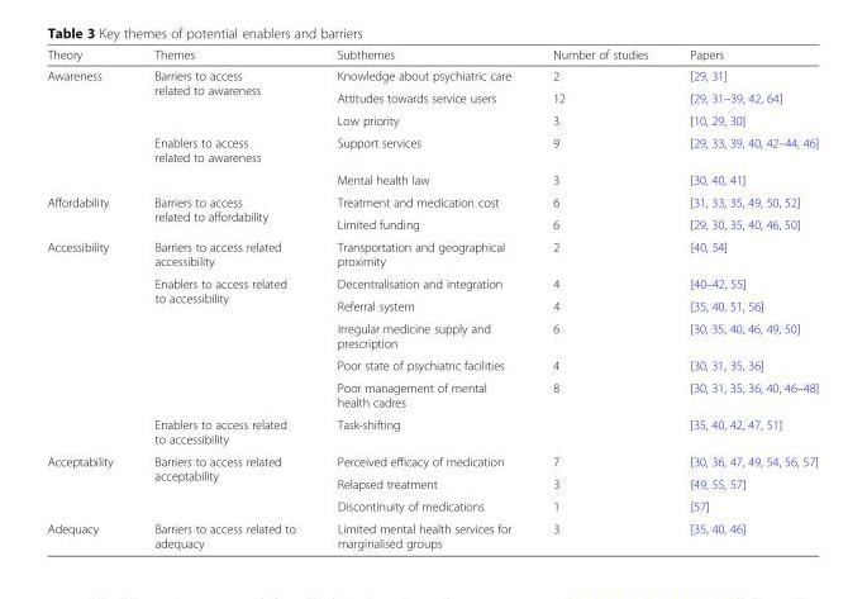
<table><thead><tr><td>Theory</td><td>Themes</td><td>Subthemes</td><td>Number of studies</td><td>Papers</td></tr></thead><tbody><tr><td rowspan="5">Awareness</td><td rowspan="3">Barriers to access related to awareness</td><td>Knowledge about psychiatric care</td><td>2</td><td>[29, 31]</td></tr><tr><td>Attitudes towards service users</td><td>12</td><td>[29, 31–39, 42, 64]</td></tr><tr><td>Low priority</td><td>3</td><td>[10, 29, 30]</td></tr><tr><td>Enablers to access related to awareness</td><td>Support services</td><td>9</td><td>[29, 33, 39, 40, 42–44, 46]</td></tr><tr><td></td><td>Mental health law</td><td>3</td><td>[30, 40, 41]</td></tr><tr><td rowspan="2">Affordability</td><td rowspan="2">Barriers to access related to affordability</td><td>Treatment and medication cost</td><td>6</td><td>[31, 33, 35, 49, 50, 52]</td></tr><tr><td>Limited funding</td><td>6</td><td>[29, 30, 35, 40, 46, 50]</td></tr><tr><td rowspan="7">Accessibility</td><td>Barriers to access related accessibility</td><td>Transportation and geographical proximity</td><td>2</td><td>[40, 54]</td></tr><tr><td rowspan="5">Enablers to access related to accessibility</td><td>Decentralisation and integration</td><td>4</td><td>[40–42, 55]</td></tr><tr><td>Referral system</td><td>4</td><td>[35, 40, 51, 56]</td></tr><tr><td>Irregular medicine supply and prescription</td><td>6</td><td>[30, 35, 40, 46, 49, 50]</td></tr><tr><td>Poor state of psychiatric facilities</td><td>4</td><td>[30, 31, 35, 36]</td></tr><tr><td>Poor management of mental health cadres</td><td>8</td><td>[30, 31, 35, 36, 40, 46–48]</td></tr><tr><td>Enablers to access related to accessibility</td><td>Task-shifting</td><td></td><td>[35, 40, 42, 47, 51]</td></tr><tr><td rowspan="3">Acceptability</td><td rowspan="3">Barriers to access related acceptability</td><td>Perceived efficacy of medication</td><td>7</td><td>[30, 36, 47, 49, 54, 56, 57]</td></tr><tr><td>Relapsed treatment</td><td>3</td><td>[49, 55, 57]</td></tr><tr><td>Discontinuity of medications</td><td>1</td><td>[57]</td></tr><tr><td>Adequacy</td><td>Barriers to access related to adequacy</td><td>Limited mental health services for marginalised groups</td><td>3</td><td>[35, 40, 46]</td></tr></tbody></table>